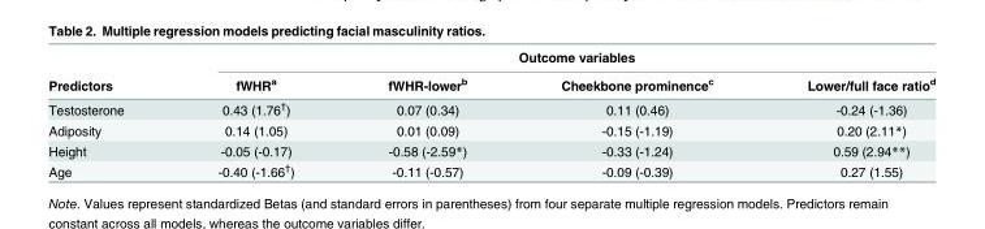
<table><thead><tr><td rowspan="2">Predictors</td><td colspan="4">Outcome variables</td></tr><tr><td>fWHR<sup>a</sup></td><td>fWHR-lower<sup>b</sup></td><td>Cheekbone prominence<sup>c</sup></td><td>Lower/full face ratio<sup>d</sup></td></tr></thead><tbody><tr><td>Testosterone</td><td>0.43 (1.76<sup>†</sup>)</td><td>0.07 (0.34)</td><td>0.11 (0.46)</td><td>-0.24 (-1.36)</td></tr><tr><td>Adiposity</td><td>0.14 (1.05)</td><td>0.01 (0.09)</td><td>-0.15 (-1.19)</td><td>0.20 (2.11*)</td></tr><tr><td>Height</td><td>-0.05 (-0.17)</td><td>-0.58 (-2.59*)</td><td>-0.33 (-1.24)</td><td>0.59 (2.94**)</td></tr><tr><td>Age</td><td>-0.40 (-1.66<sup>†</sup>)</td><td>-0.11 (-0.57)</td><td>-0.09 (-0.39)</td><td>0.27 (1.55)</td></tr></tbody></table>